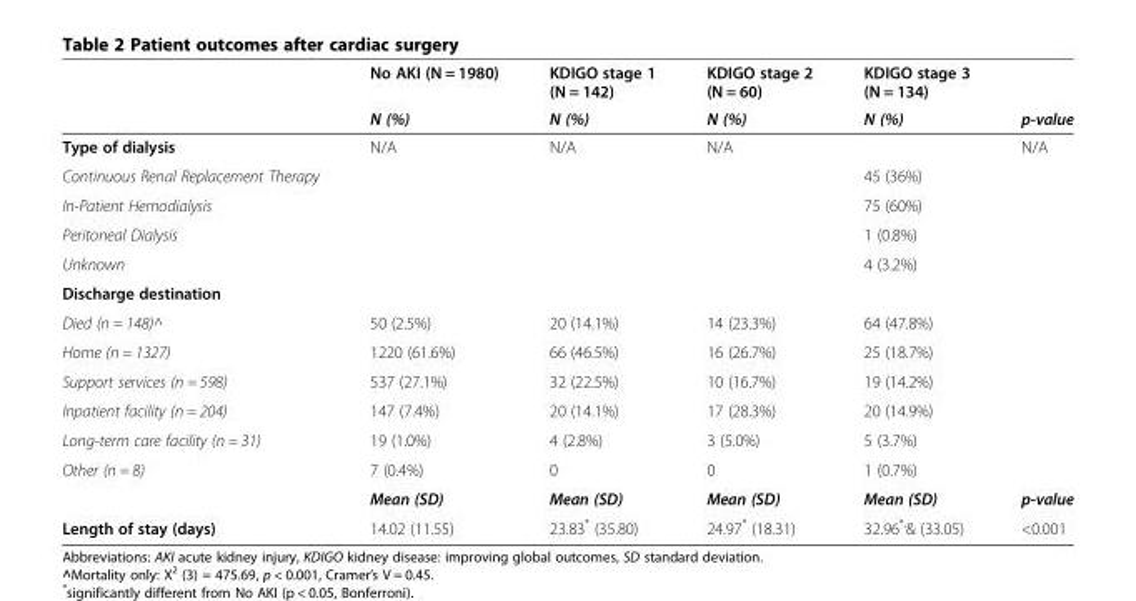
<table><thead><tr><td rowspan="2"></td><td rowspan="2">No AKI (N = 1980) N (%)</td><td rowspan="2">KDIGO stage 1 (N = 142) N (%)</td><td rowspan="2">KDIGO stage 2 (N = 60) N (%)</td><td rowspan="2">KDIGO stage 3 (N = 134) N (%)</td><td rowspan="2">p-value</td></tr><tr></tr></thead><tbody><tr><td>Type of dialysis</td><td>N/A</td><td>N/A</td><td>N/A</td><td></td><td>N/A</td></tr><tr><td>Continuous Renal Replacement Therapy</td><td></td><td></td><td></td><td>45 (36%)</td><td></td></tr><tr><td>In-Patient Hemodialysis</td><td></td><td></td><td></td><td>75 (60%)</td><td></td></tr><tr><td>Peritoneal Dialysis</td><td></td><td></td><td></td><td>1 (0.8%)</td><td></td></tr><tr><td>Unknown</td><td></td><td></td><td></td><td>4 (3.2%)</td><td></td></tr><tr><td colspan="6">Discharge destination</td></tr><tr><td>Died (n = 148)^</td><td>50 (2.5%)</td><td>20 (14.1%)</td><td>14 (23.3%)</td><td>64 (47.8%)</td><td></td></tr><tr><td>Home (n = 1327)</td><td>1220 (61.6%)</td><td>66 (46.5%)</td><td>16 (26.7%)</td><td>25 (18.7%)</td><td></td></tr><tr><td>Support services (n = 598)</td><td>537 (27.1%)</td><td>32 (22.5%)</td><td>10 (16.7%)</td><td>19 (14.2%)</td><td></td></tr><tr><td>Inpatient facility (n = 204)</td><td>147 (7.4%)</td><td>20 (14.1%)</td><td>17 (28.3%)</td><td>20 (14.9%)</td><td></td></tr><tr><td>Long-term care facility (n = 31)</td><td>19 (1.0%)</td><td>4 (2.8%)</td><td>3 (5.0%)</td><td>5 (3.7%)</td><td></td></tr><tr><td rowspan="2">Other (n = 8)</td><td>7 (0.4%)</td><td>0</td><td>0</td><td>1 (0.7%)</td><td></td></tr><tr><td>Mean (SD)</td><td>Mean (SD)</td><td>Mean (SD)</td><td>Mean (SD)</td><td>p-value</td></tr><tr><td>Length of stay (days)</td><td>14.02 (11.55)</td><td>23.83* (35.80)</td><td>24.97* (18.31)</td><td>32.96<sup>*,</sup>&amp; (33.05)</td><td>&lt;0.001</td></tr></tbody></table>